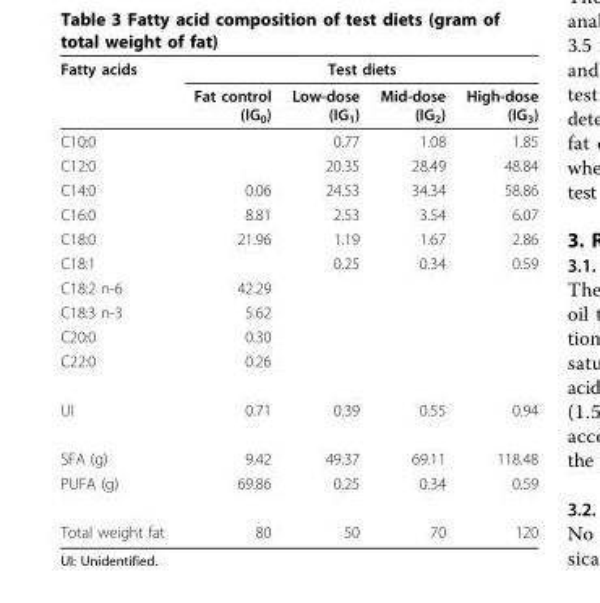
<table><thead><tr><td rowspan="2">Fatty acids</td><td colspan="4">Test diets</td></tr><tr><td>Fat control (IG<sub>0</sub>)</td><td>Low-dose (IG<sub>1</sub>)</td><td>Mid-dose (IG<sub>2</sub>)</td><td>High-dose (IG<sub>3</sub>)</td></tr></thead><tbody><tr><td>C10:0</td><td></td><td>0.77</td><td>1.08</td><td>1.85</td></tr><tr><td>C12:0</td><td></td><td>20.35</td><td>28.49</td><td>48.84</td></tr><tr><td>C14:0</td><td>0.06</td><td>24.53</td><td>34.34</td><td>58.86</td></tr><tr><td>C16:0</td><td>8.81</td><td>2.53</td><td>3.54</td><td>6.07</td></tr><tr><td>C18:0</td><td>21.96</td><td>1.19</td><td>1.67</td><td>2.86</td></tr><tr><td>C18:1</td><td></td><td>0.25</td><td>0.34</td><td>0.59</td></tr><tr><td>C18:2 n-6</td><td>42.29</td><td></td><td></td><td></td></tr><tr><td>C18:3 n-3</td><td>5.62</td><td></td><td></td><td></td></tr><tr><td>C20:0</td><td>0.30</td><td></td><td></td><td></td></tr><tr><td>C22:0</td><td>0.26</td><td></td><td></td><td></td></tr><tr><td>UI</td><td>0.71</td><td>0.39</td><td>0.55</td><td>0.94</td></tr><tr><td>SFA (g)</td><td>9.42</td><td>49.37</td><td>69.11</td><td>118.48</td></tr><tr><td>PUFA (g)</td><td>69.86</td><td>0.25</td><td>0.34</td><td>0.59</td></tr><tr><td>Total weight fat</td><td>80</td><td>50</td><td>70</td><td>120</td></tr></tbody></table>